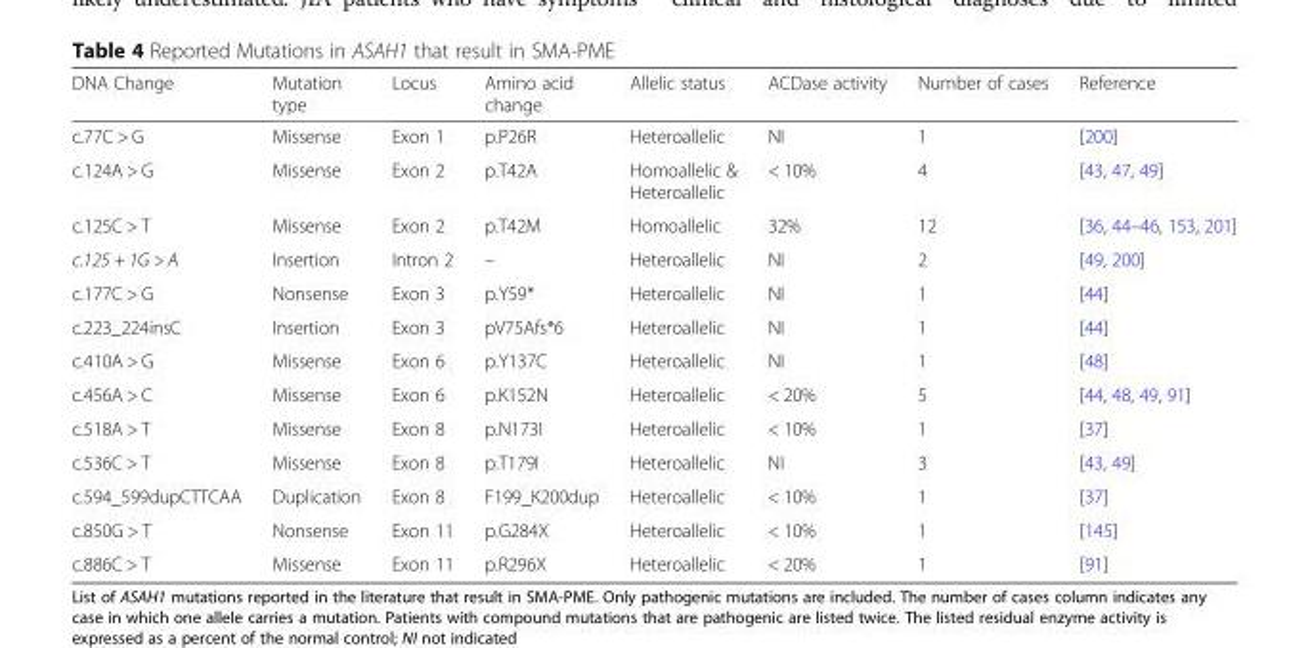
<table><thead><tr><td>DNA Change</td><td>Mutation type</td><td>Locus</td><td>Amino acid change</td><td>Allelic status</td><td>ACDase activity</td><td>Number of cases</td><td>Reference</td></tr></thead><tbody><tr><td>c.77C &gt; G</td><td>Missense</td><td>Exon 1</td><td>p.P26R</td><td>Heteroallelic</td><td>NI</td><td>1</td><td>[200]</td></tr><tr><td>c.124A &gt; G</td><td>Missense</td><td>Exon 2</td><td>p.T42A</td><td>Homoallelic &amp; Heteroallelic</td><td>&lt; 10%</td><td>4</td><td>[43, 47, 49]</td></tr><tr><td>c.125C &gt; T</td><td>Missense</td><td>Exon 2</td><td>p.T42M</td><td>Homoallelic</td><td>32%</td><td>12</td><td>[36, 44–46, 153, 201]</td></tr><tr><td>c.125 + 1G &gt; A</td><td>Insertion</td><td>Intron 2</td><td>–</td><td>Heteroallelic</td><td>NI</td><td>2</td><td>[49, 200]</td></tr><tr><td>c.177C &gt; G</td><td>Nonsense</td><td>Exon 3</td><td>p.Y59*</td><td>Heteroallelic</td><td>NI</td><td>1</td><td>[44]</td></tr><tr><td>c.223_224insC</td><td>Insertion</td><td>Exon 3</td><td>pV75Afs*6</td><td>Heteroallelic</td><td>NI</td><td>1</td><td>[44]</td></tr><tr><td>c.410A &gt; G</td><td>Missense</td><td>Exon 6</td><td>p.Y137C</td><td>Heteroallelic</td><td>NI</td><td>1</td><td>[48]</td></tr><tr><td>c.456A &gt; C</td><td>Missense</td><td>Exon 6</td><td>p.K152N</td><td>Heteroallelic</td><td>&lt; 20%</td><td>5</td><td>[44, 48, 49, 91]</td></tr><tr><td>c.518A &gt; T</td><td>Missense</td><td>Exon 8</td><td>p.N173I</td><td>Heteroallelic</td><td>&lt; 10%</td><td>1</td><td>[37]</td></tr><tr><td>c.536C &gt; T</td><td>Missense</td><td>Exon 8</td><td>p.T179I</td><td>Heteroallelic</td><td>NI</td><td>3</td><td>[43, 49]</td></tr><tr><td>c.594_599dupCTTCAA</td><td>Duplication</td><td>Exon 8</td><td>F199_K200dup</td><td>Heteroallelic</td><td>&lt; 10%</td><td>1</td><td>[37]</td></tr><tr><td>c.850G &gt; T</td><td>Nonsense</td><td>Exon 11</td><td>p.G284X</td><td>Heteroallelic</td><td>&lt; 10%</td><td>1</td><td>[145]</td></tr><tr><td>c.886C &gt; T</td><td>Missense</td><td>Exon 11</td><td>p.R296X</td><td>Heteroallelic</td><td>&lt; 20%</td><td>1</td><td>[91]</td></tr></tbody></table>